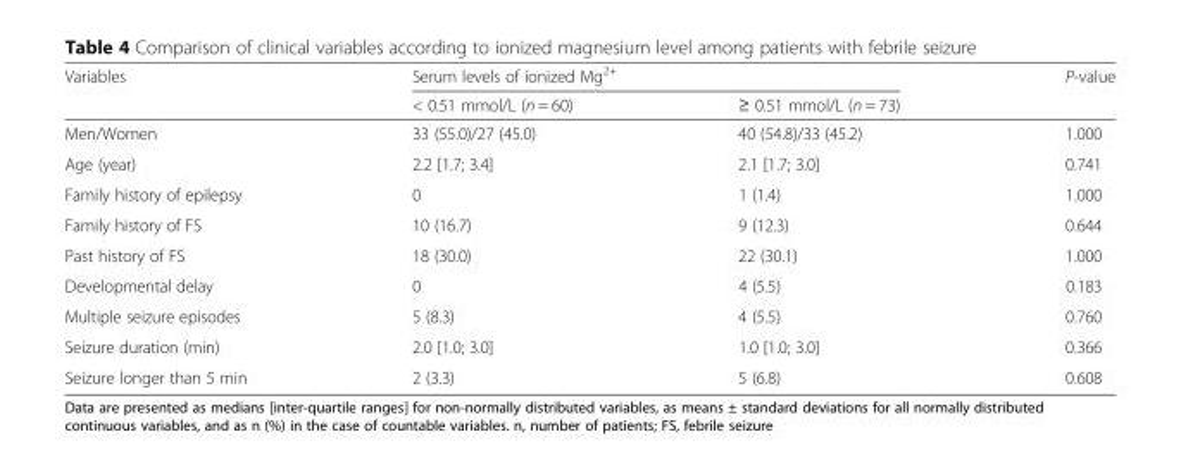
<table><thead><tr><td rowspan="2">Variables</td><td colspan="2">Serum levels of ionized Mg<sup>2+</sup></td><td rowspan="2">P-value</td></tr><tr><td>&lt; 0.51 mmol/L (n = 60)</td><td>≥ 0.51 mmol/L (n = 73)</td></tr></thead><tbody><tr><td>Men/Women</td><td>33 (55.0)/27 (45.0)</td><td>40 (54.8)/33 (45.2)</td><td>1.000</td></tr><tr><td>Age (year)</td><td>2.2 [1.7; 3.4]</td><td>2.1 [1.7; 3.0]</td><td>0.741</td></tr><tr><td>Family history of epilepsy</td><td>0</td><td>1 (1.4)</td><td>1.000</td></tr><tr><td>Family history of FS</td><td>10 (16.7)</td><td>9 (12.3)</td><td>0.644</td></tr><tr><td>Past history of FS</td><td>18 (30.0)</td><td>22 (30.1)</td><td>1.000</td></tr><tr><td>Developmental delay</td><td>0</td><td>4 (5.5)</td><td>0.183</td></tr><tr><td>Multiple seizure episodes</td><td>5 (8.3)</td><td>4 (5.5)</td><td>0.760</td></tr><tr><td>Seizure duration (min)</td><td>2.0 [1.0; 3.0]</td><td>1.0 [1.0; 3.0]</td><td>0.366</td></tr><tr><td>Seizure longer than 5 min</td><td>2 (3.3)</td><td>5 (6.8)</td><td>0.608</td></tr></tbody></table>